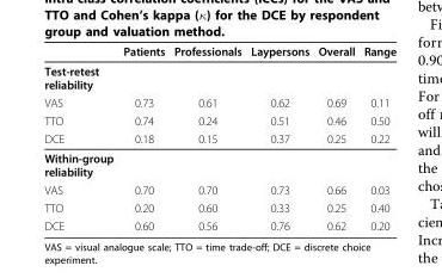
<table><thead><tr><td></td><td>Patients</td><td>Professionals</td><td>Laypersons</td><td>Overall</td><td>Range</td></tr></thead><tbody><tr><td colspan="6">Test-retest reliability</td></tr><tr><td>VAS</td><td>0.73</td><td>0.61</td><td>0.62</td><td>0.69</td><td>0.11</td></tr><tr><td>TTO</td><td>0.74</td><td>0.24</td><td>0.51</td><td>0.46</td><td>0.50</td></tr><tr><td>DCE</td><td>0.18</td><td>0.15</td><td>0.37</td><td>0.25</td><td>0.22</td></tr><tr><td colspan="6">Within-group reliability</td></tr><tr><td>VAS</td><td>0.70</td><td>0.70</td><td>0.73</td><td>0.66</td><td>0.03</td></tr><tr><td>TTO</td><td>0.20</td><td>0.60</td><td>0.33</td><td>0.25</td><td>0.40</td></tr><tr><td>DCE</td><td>0.60</td><td>0.56</td><td>0.76</td><td>0.62</td><td>0.20</td></tr></tbody></table>